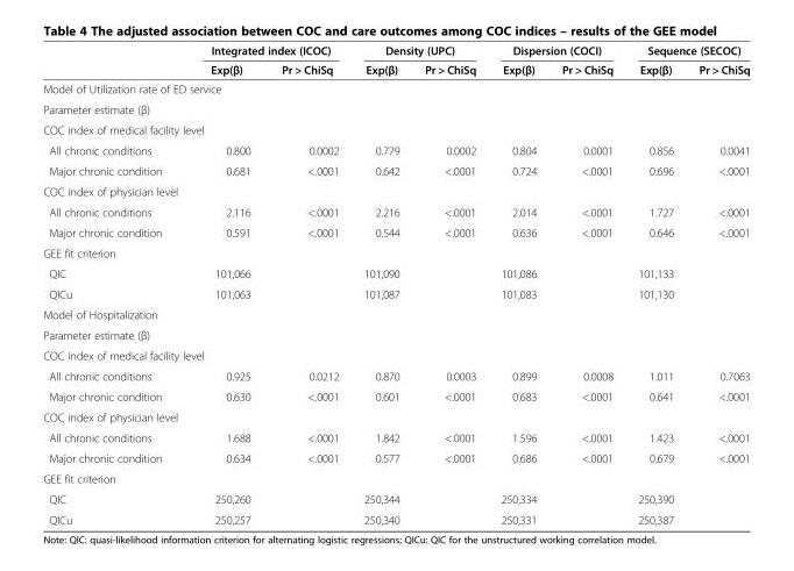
<table><thead><tr><td rowspan="2"></td><td colspan="2">Integrated index (ICOC)</td><td colspan="2">Density (UPC)</td><td colspan="2">Dispersion (COCI)</td><td colspan="2">Sequence (SECOC)</td></tr><tr><td>Exp(β)</td><td>Pr &gt; ChiSq</td><td>Exp(β)</td><td>Pr &gt; ChiSq</td><td>Exp(β)</td><td>Pr &gt; ChiSq</td><td>Exp(β)</td><td>Pr &gt; ChiSq</td></tr></thead><tbody><tr><td colspan="9">Model of Utilization rate of ED service</td></tr><tr><td colspan="9">Parameter estimate (β)</td></tr><tr><td colspan="9">COC index of medical facility level</td></tr><tr><td>All chronic conditions</td><td>0.800</td><td>0.0002</td><td>0.779</td><td>0.0002</td><td>0.804</td><td>0.0001</td><td>0.856</td><td>0.0041</td></tr><tr><td>Major chronic condition</td><td>0.681</td><td>&lt;.0001</td><td>0.642</td><td>&lt;.0001</td><td>0.724</td><td>&lt;.0001</td><td>0.696</td><td>&lt;.0001</td></tr><tr><td colspan="9">COC index of physician level</td></tr><tr><td>All chronic conditions</td><td>2.116</td><td>&lt;.0001</td><td>2.216</td><td>&lt;.0001</td><td>2.014</td><td>&lt;.0001</td><td>1.727</td><td>&lt;.0001</td></tr><tr><td>Major chronic condition</td><td>0.591</td><td>&lt;.0001</td><td>0.544</td><td>&lt;.0001</td><td>0.636</td><td>&lt;.0001</td><td>0.646</td><td>&lt;.0001</td></tr><tr><td colspan="9">GEE fit criterion</td></tr><tr><td>QIC</td><td>101,066</td><td></td><td>101,090</td><td></td><td>101,086</td><td></td><td>101,133</td><td></td></tr><tr><td>QICu</td><td>101,063</td><td></td><td>101,087</td><td></td><td>101,083</td><td></td><td>101,130</td><td></td></tr><tr><td colspan="9">Model of Hospitalization</td></tr><tr><td colspan="9">Parameter estimate (β)</td></tr><tr><td colspan="9">COC index of medical facility level</td></tr><tr><td>All chronic conditions</td><td>0.925</td><td>0.0212</td><td>0.870</td><td>0.0003</td><td>0.899</td><td>0.0008</td><td>1.011</td><td>0.7063</td></tr><tr><td>Major chronic condition</td><td>0.630</td><td>&lt;.0001</td><td>0.601</td><td>&lt;.0001</td><td>0.683</td><td>&lt;.0001</td><td>0.641</td><td>&lt;.0001</td></tr><tr><td colspan="9">COC index of physician level</td></tr><tr><td>All chronic conditions</td><td>1.688</td><td>&lt;.0001</td><td>1.842</td><td>&lt;.0001</td><td>1.596</td><td>&lt;.0001</td><td>1.423</td><td>&lt;.0001</td></tr><tr><td>Major chronic condition</td><td>0.634</td><td>&lt;.0001</td><td>0.577</td><td>&lt;.0001</td><td>0.686</td><td>&lt;.0001</td><td>0.679</td><td>&lt;.0001</td></tr><tr><td colspan="9">GEE fit criterion</td></tr><tr><td>QIC</td><td>250,260</td><td></td><td>250,344</td><td></td><td>250,334</td><td></td><td>250,390</td><td></td></tr><tr><td>QICu</td><td>250,257</td><td></td><td>250,340</td><td></td><td>250,331</td><td></td><td>250,387</td><td></td></tr></tbody></table>